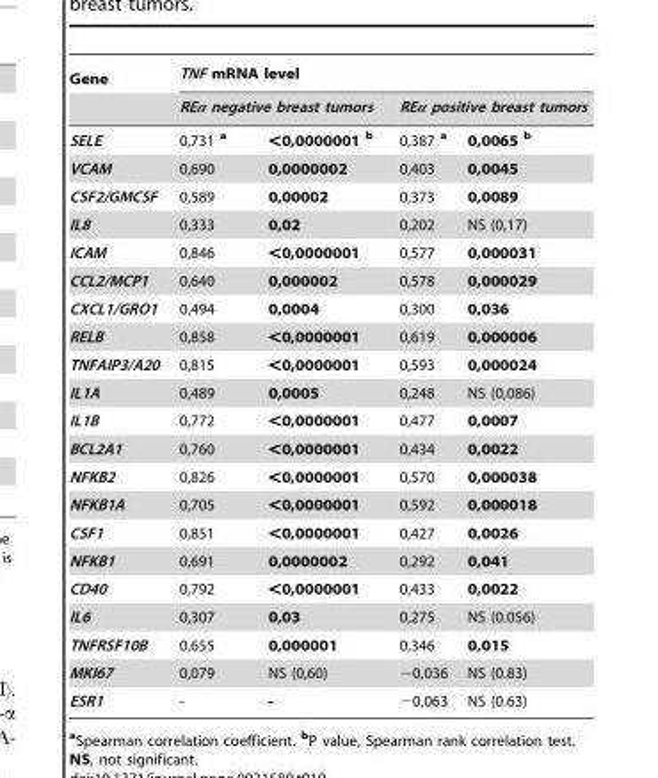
<table><thead><tr><td rowspan="3">Gene SELE</td><td colspan="4">TNF mRNA level</td></tr><tr><td colspan="2">REα negative breast tumors</td><td colspan="2">REα positive breast tumors</td></tr><tr><td>0,731 a</td><td>&lt;0,0000001 <sup>b</sup></td><td>0,387 a</td><td>0,0065 <sup>b</sup></td></tr></thead><tbody><tr><td>VCAM</td><td>0,690</td><td>0,0000002</td><td>0,403</td><td>0,0045</td></tr><tr><td>CSF2/GMCSF</td><td>0,589</td><td>0,00002</td><td>0,373</td><td>0,0089</td></tr><tr><td>IL8</td><td>0,333</td><td>0,02</td><td>0,202</td><td>NS (0,17)</td></tr><tr><td>ICAM</td><td>0,846</td><td>&lt;0,0000001</td><td>0,577</td><td>0,000031</td></tr><tr><td>CCL2/MCP1</td><td>0,640</td><td>0,000002</td><td>0,578</td><td>0,000029</td></tr><tr><td>CXCL1/GRO1</td><td>0,494</td><td>0,0004</td><td>0,300</td><td>0,036</td></tr><tr><td>RELB</td><td>0,858</td><td>&lt;0,0000001</td><td>0,619</td><td>0,000006</td></tr><tr><td>TNFAIP3/A20</td><td>0,815</td><td>&lt;0,0000001</td><td>0,593</td><td>0,000024</td></tr><tr><td>IL1A</td><td>0,489</td><td>0,0005</td><td>0,248</td><td>NS (0,086)</td></tr><tr><td>IL1B</td><td>0,772</td><td>&lt;0,0000001</td><td>0,477</td><td>0,0007</td></tr><tr><td>BCL2A1</td><td>0,760</td><td>&lt;0,0000001</td><td>0,434</td><td>0,0022</td></tr><tr><td>NFKB2</td><td>0,826</td><td>&lt;0,0000001</td><td>0,570</td><td>0,000038</td></tr><tr><td>NFKB1A</td><td>0,705</td><td>&lt;0,0000001</td><td>0,592</td><td>0,000018</td></tr><tr><td>CSF1</td><td>0,851</td><td>&lt;0,0000001</td><td>0,427</td><td>0,0026</td></tr><tr><td>NFKB1</td><td>0,691</td><td>0,0000002</td><td>0,292</td><td>0,041</td></tr><tr><td>CD40</td><td>0,792</td><td>&lt;0,0000001</td><td>0,433</td><td>0,0022</td></tr><tr><td>IL6</td><td>0,307</td><td>0,03</td><td>0,275</td><td>NS (0.056)</td></tr><tr><td>TNFRSF10B</td><td>0,655</td><td>0,000001</td><td>0,346</td><td>0,015</td></tr><tr><td>MKI67</td><td>0,079</td><td>NS (0,60)</td><td>−0,036</td><td>NS (0.83)</td></tr><tr><td>ESR1</td><td>-</td><td>-</td><td>−0,063</td><td>NS (0.63)</td></tr></tbody></table>